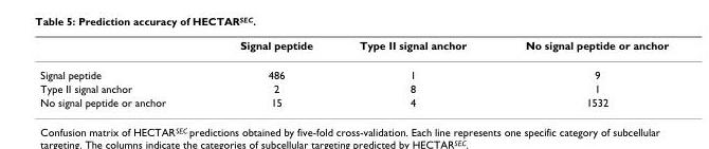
<table><thead><tr><td></td><td>Signal peptide</td><td>Type II signal anchor</td><td>No signal peptide or anchor</td></tr></thead><tbody><tr><td>Signal peptide</td><td>486</td><td>1</td><td>9</td></tr><tr><td>Type II signal anchor</td><td>2</td><td>8</td><td>1</td></tr><tr><td>No signal peptide or anchor</td><td>15</td><td>4</td><td>1532</td></tr></tbody></table>